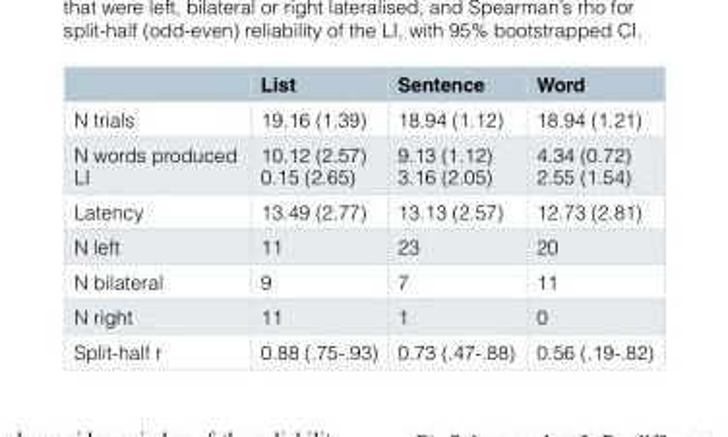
<table><thead><tr><td></td><td>List</td><td>Sentence</td><td>Word</td></tr></thead><tbody><tr><td>N trials</td><td>19.16 (1.39)</td><td>18.94 (1.12)</td><td>18.94 (1.21)</td></tr><tr><td>N words produced LI</td><td>10.12 (2.57) 0.15 (2.65)</td><td>9.13 (1.12) 3.16 (2.05)</td><td>4.34 (0.72) 2.55 (1.54)</td></tr><tr><td>Latency</td><td>13.49 (2.77)</td><td>13.13 (2.57)</td><td>12.73 (2.81)</td></tr><tr><td>N left</td><td>11</td><td>23</td><td>20</td></tr><tr><td>N bilateral</td><td>9</td><td>7</td><td>11</td></tr><tr><td>N right</td><td>11</td><td>1</td><td>0</td></tr><tr><td>Split-half r</td><td>0.88 (.75-.93)</td><td>0.73 (.47-.88)</td><td>0.56 (.19-.82)</td></tr></tbody></table>